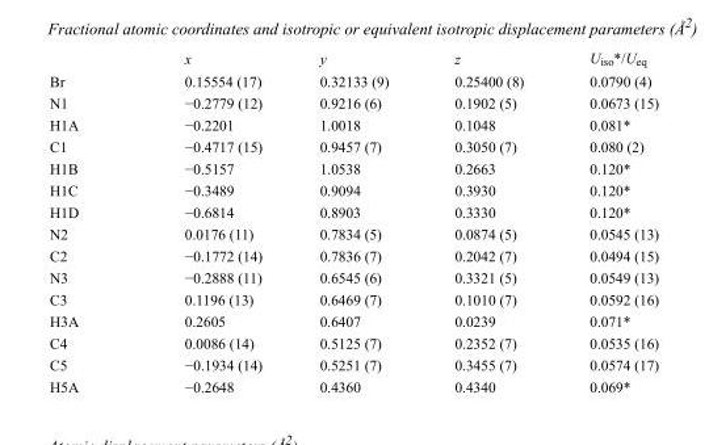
<table><thead><tr><td></td><td>x</td><td>y</td><td>z</td><td>U<sub>iso</sub>*/U<sub>eq</sub></td></tr></thead><tbody><tr><td>Br</td><td>0.15554 (17)</td><td>0.32133 (9)</td><td>0.25400 (8)</td><td>0.0790 (4)</td></tr><tr><td>N1</td><td>−0.2779 (12)</td><td>0.9216 (6)</td><td>0.1902 (5)</td><td>0.0673 (15)</td></tr><tr><td>H1A</td><td>−0.2201</td><td>1.0018</td><td>0.1048</td><td>0.081*</td></tr><tr><td>C1</td><td>−0.4717 (15)</td><td>0.9457 (7)</td><td>0.3050 (7)</td><td>0.080 (2)</td></tr><tr><td>H1B</td><td>−0.5157</td><td>1.0538</td><td>0.2663</td><td>0.120*</td></tr><tr><td>H1C</td><td>−0.3489</td><td>0.9094</td><td>0.3930</td><td>0.120*</td></tr><tr><td>H1D</td><td>−0.6814</td><td>0.8903</td><td>0.3330</td><td>0.120*</td></tr><tr><td>N2</td><td>0.0176 (11)</td><td>0.7834 (5)</td><td>0.0874 (5)</td><td>0.0545 (13)</td></tr><tr><td>C2</td><td>−0.1772 (14)</td><td>0.7836 (7)</td><td>0.2042 (7)</td><td>0.0494 (15)</td></tr><tr><td>N3</td><td>−0.2888 (11)</td><td>0.6545 (6)</td><td>0.3321 (5)</td><td>0.0549 (13)</td></tr><tr><td>C3</td><td>0.1196 (13)</td><td>0.6469 (7)</td><td>0.1010 (7)</td><td>0.0592 (16)</td></tr><tr><td>H3A</td><td>0.2605</td><td>0.6407</td><td>0.0239</td><td>0.071*</td></tr><tr><td>C4</td><td>0.0086 (14)</td><td>0.5125 (7)</td><td>0.2352 (7)</td><td>0.0535 (16)</td></tr><tr><td>C5</td><td>−0.1934 (14)</td><td>0.5251 (7)</td><td>0.3455 (7)</td><td>0.0574 (17)</td></tr><tr><td>H5A</td><td>−0.2648</td><td>0.4360</td><td>0.4340</td><td>0.069*</td></tr></tbody></table>